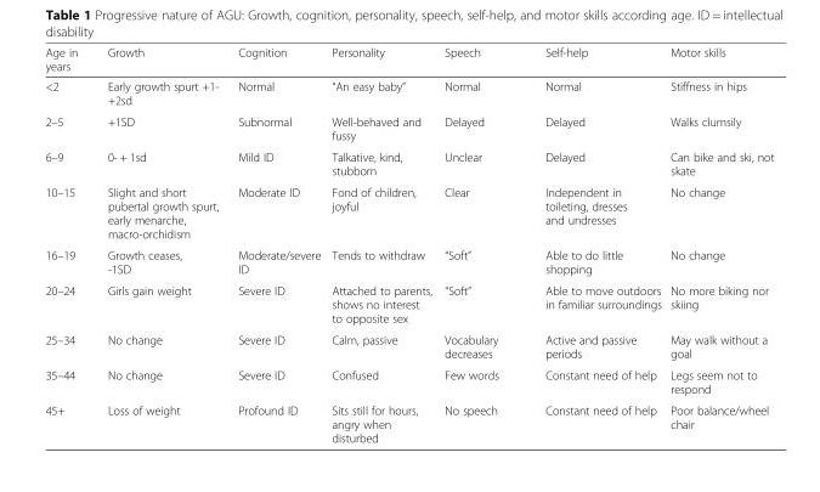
<table><thead><tr><td>Age in years</td><td>Growth</td><td>Cognition</td><td>Personality</td><td>Speech</td><td>Self-help</td><td>Motor skills</td></tr></thead><tbody><tr><td>&lt;2</td><td>Early growth spurt +1- +2sd</td><td>Normal</td><td>“An easy baby”</td><td>Normal</td><td>Normal</td><td>Stiffness in hips</td></tr><tr><td>2–5</td><td>+1SD</td><td>Subnormal</td><td>Well-behaved and fussy</td><td>Delayed</td><td>Delayed</td><td>Walks clumsily</td></tr><tr><td>6–9</td><td>0- + 1sd</td><td>Mild ID</td><td>Talkative, kind, stubborn</td><td>Unclear</td><td>Delayed</td><td>Can bike and ski, not skate</td></tr><tr><td>10–15</td><td>Slight and short pubertal growth spurt, early menarche, macro-orchidism</td><td>Moderate ID</td><td>Fond of children, joyful</td><td>Clear</td><td>Independent in toileting, dresses and undresses</td><td>No change</td></tr><tr><td>16–19</td><td>Growth ceases, -1SD</td><td>Moderate/severe ID</td><td>Tends to withdraw</td><td>“Soft”</td><td>Able to do little shopping</td><td>No change</td></tr><tr><td>20–24</td><td>Girls gain weight</td><td>Severe ID</td><td>Attached to parents, shows no interest to opposite sex</td><td>“Soft”</td><td>Able to move outdoors in familiar surroundings</td><td>No more biking nor skiing</td></tr><tr><td>25–34</td><td>No change</td><td>Severe ID</td><td>Calm, passive</td><td>Vocabulary decreases</td><td>Active and passive periods</td><td>May walk without a goal</td></tr><tr><td>35–44</td><td>No change</td><td>Severe ID</td><td>Confused</td><td>Few words</td><td>Constant need of help</td><td>Legs seem not to respond</td></tr><tr><td>45+</td><td>Loss of weight</td><td>Profound ID</td><td>Sits still for hours, angry when disturbed</td><td>No speech</td><td>Constant need of help</td><td>Poor balance/wheel chair</td></tr></tbody></table>